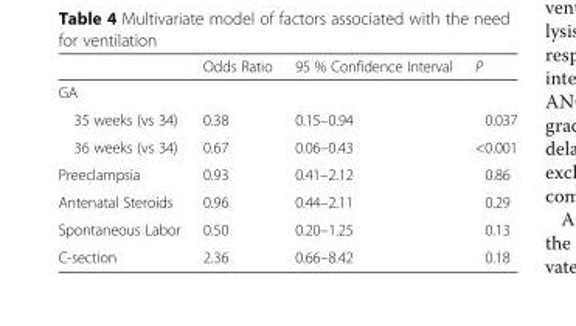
<table><thead><tr><td></td><td>Odds Ratio</td><td>95 % Confidence Interval</td><td>P</td></tr></thead><tbody><tr><td colspan="4">GA</td></tr><tr><td>35 weeks (vs 34)</td><td>0.38</td><td>0.15–0.94</td><td>0.037</td></tr><tr><td>36 weeks (vs 34)</td><td>0.67</td><td>0.06–0.43</td><td>&lt;0.001</td></tr><tr><td>Preeclampsia</td><td>0.93</td><td>0.41–2.12</td><td>0.86</td></tr><tr><td>Antenatal Steroids</td><td>0.96</td><td>0.44–2.11</td><td>0.29</td></tr><tr><td>Spontaneous Labor</td><td>0.50</td><td>0.20–1.25</td><td>0.13</td></tr><tr><td>C-section</td><td>2.36</td><td>0.66–8.42</td><td>0.18</td></tr></tbody></table>